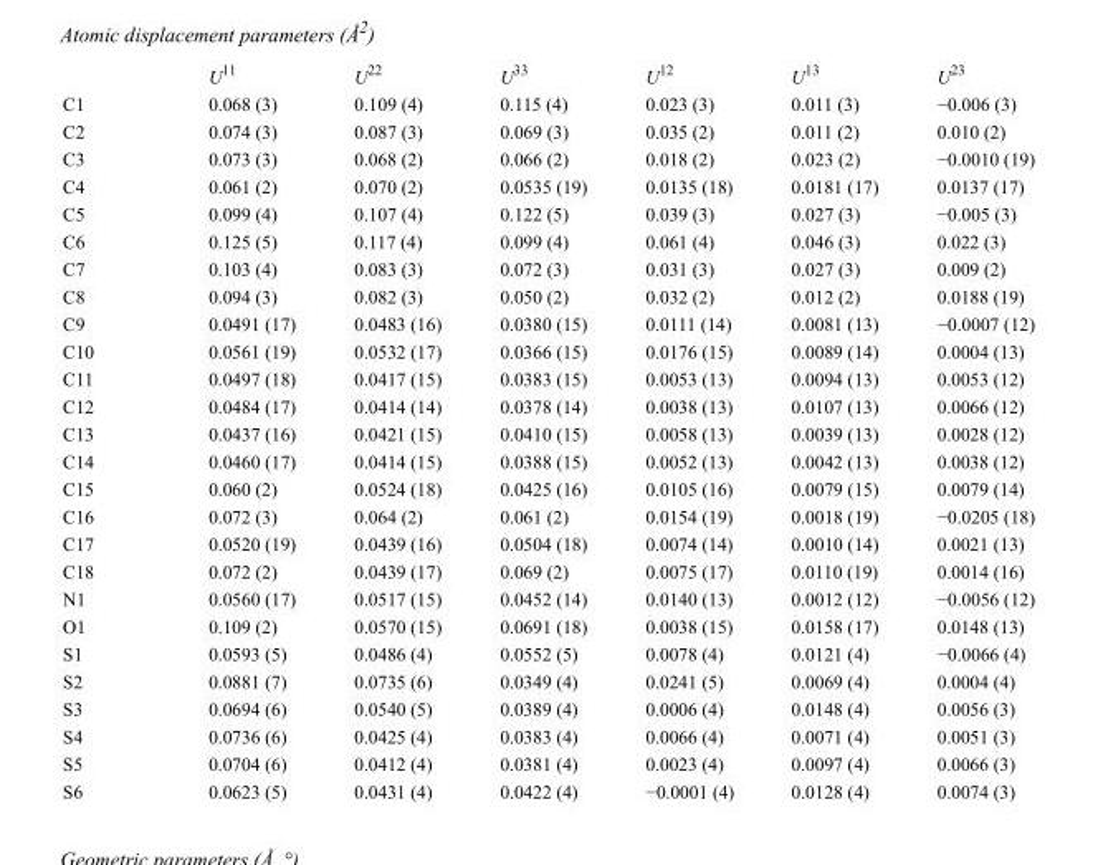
<table><thead><tr><td></td><td>U<sup>11</sup></td><td>U<sup>22</sup></td><td>U<sup>33</sup></td><td>U<sup>12</sup></td><td>U<sup>13</sup></td><td>U<sup>23</sup></td></tr></thead><tbody><tr><td>C1</td><td>0.068 (3)</td><td>0.109 (4)</td><td>0.115 (4)</td><td>0.023 (3)</td><td>0.011 (3)</td><td>−0.006 (3)</td></tr><tr><td>C2</td><td>0.074 (3)</td><td>0.087 (3)</td><td>0.069 (3)</td><td>0.035 (2)</td><td>0.011 (2)</td><td>0.010 (2)</td></tr><tr><td>C3</td><td>0.073 (3)</td><td>0.068 (2)</td><td>0.066 (2)</td><td>0.018 (2)</td><td>0.023 (2)</td><td>−0.0010 (19)</td></tr><tr><td>C4</td><td>0.061 (2)</td><td>0.070 (2)</td><td>0.0535 (19)</td><td>0.0135 (18)</td><td>0.0181 (17)</td><td>0.0137 (17)</td></tr><tr><td>C5</td><td>0.099 (4)</td><td>0.107 (4)</td><td>0.122 (5)</td><td>0.039 (3)</td><td>0.027 (3)</td><td>−0.005 (3)</td></tr><tr><td>C6</td><td>0.125 (5)</td><td>0.117 (4)</td><td>0.099 (4)</td><td>0.061 (4)</td><td>0.046 (3)</td><td>0.022 (3)</td></tr><tr><td>C7</td><td>0.103 (4)</td><td>0.083 (3)</td><td>0.072 (3)</td><td>0.031 (3)</td><td>0.027 (3)</td><td>0.009 (2)</td></tr><tr><td>C8</td><td>0.094 (3)</td><td>0.082 (3)</td><td>0.050 (2)</td><td>0.032 (2)</td><td>0.012 (2)</td><td>0.0188 (19)</td></tr><tr><td>C9</td><td>0.0491 (17)</td><td>0.0483 (16)</td><td>0.0380 (15)</td><td>0.0111 (14)</td><td>0.0081 (13)</td><td>−0.0007 (12)</td></tr><tr><td>C10</td><td>0.0561 (19)</td><td>0.0532 (17)</td><td>0.0366 (15)</td><td>0.0176 (15)</td><td>0.0089 (14)</td><td>0.0004 (13)</td></tr><tr><td>C11</td><td>0.0497 (18)</td><td>0.0417 (15)</td><td>0.0383 (15)</td><td>0.0053 (13)</td><td>0.0094 (13)</td><td>0.0053 (12)</td></tr><tr><td>C12</td><td>0.0484 (17)</td><td>0.0414 (14)</td><td>0.0378 (14)</td><td>0.0038 (13)</td><td>0.0107 (13)</td><td>0.0066 (12)</td></tr><tr><td>C13</td><td>0.0437 (16)</td><td>0.0421 (15)</td><td>0.0410 (15)</td><td>0.0058 (13)</td><td>0.0039 (13)</td><td>0.0028 (12)</td></tr><tr><td>C14</td><td>0.0460 (17)</td><td>0.0414 (15)</td><td>0.0388 (15)</td><td>0.0052 (13)</td><td>0.0042 (13)</td><td>0.0038 (12)</td></tr><tr><td>C15</td><td>0.060 (2)</td><td>0.0524 (18)</td><td>0.0425 (16)</td><td>0.0105 (16)</td><td>0.0079 (15)</td><td>0.0079 (14)</td></tr><tr><td>C16</td><td>0.072 (3)</td><td>0.064 (2)</td><td>0.061 (2)</td><td>0.0154 (19)</td><td>0.0018 (19)</td><td>−0.0205 (18)</td></tr><tr><td>C17</td><td>0.0520 (19)</td><td>0.0439 (16)</td><td>0.0504 (18)</td><td>0.0074 (14)</td><td>0.0010 (14)</td><td>0.0021 (13)</td></tr><tr><td>C18</td><td>0.072 (2)</td><td>0.0439 (17)</td><td>0.069 (2)</td><td>0.0075 (17)</td><td>0.0110 (19)</td><td>0.0014 (16)</td></tr><tr><td>N1</td><td>0.0560 (17)</td><td>0.0517 (15)</td><td>0.0452 (14)</td><td>0.0140 (13)</td><td>0.0012 (12)</td><td>−0.0056 (12)</td></tr><tr><td>O1</td><td>0.109 (2)</td><td>0.0570 (15)</td><td>0.0691 (18)</td><td>0.0038 (15)</td><td>0.0158 (17)</td><td>0.0148 (13)</td></tr><tr><td>S1</td><td>0.0593 (5)</td><td>0.0486 (4)</td><td>0.0552 (5)</td><td>0.0078 (4)</td><td>0.0121 (4)</td><td>−0.0066 (4)</td></tr><tr><td>S2</td><td>0.0881 (7)</td><td>0.0735 (6)</td><td>0.0349 (4)</td><td>0.0241 (5)</td><td>0.0069 (4)</td><td>0.0004 (4)</td></tr><tr><td>S3</td><td>0.0694 (6)</td><td>0.0540 (5)</td><td>0.0389 (4)</td><td>0.0006 (4)</td><td>0.0148 (4)</td><td>0.0056 (3)</td></tr><tr><td>S4</td><td>0.0736 (6)</td><td>0.0425 (4)</td><td>0.0383 (4)</td><td>0.0066 (4)</td><td>0.0071 (4)</td><td>0.0051 (3)</td></tr><tr><td>S5</td><td>0.0704 (6)</td><td>0.0412 (4)</td><td>0.0381 (4)</td><td>0.0023 (4)</td><td>0.0097 (4)</td><td>0.0066 (3)</td></tr><tr><td>S6</td><td>0.0623 (5)</td><td>0.0431 (4)</td><td>0.0422 (4)</td><td>−0.0001 (4)</td><td>0.0128 (4)</td><td>0.0074 (3)</td></tr></tbody></table>